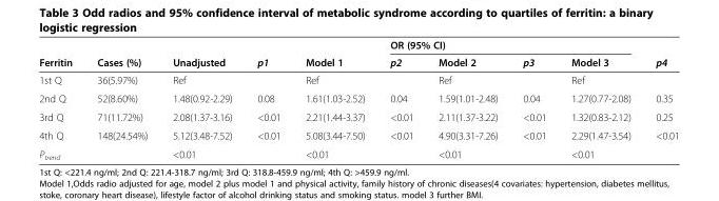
<table><thead><tr><td rowspan="2">Ferritin</td><td rowspan="2">Cases (%)</td><td rowspan="2">Unadjusted</td><td rowspan="2">p1</td><td rowspan="2">Model 1</td><td colspan="4">OR (95% CI)</td><td rowspan="2">p4</td></tr><tr><td>p2</td><td>Model 2</td><td>p3</td><td>Model 3</td></tr></thead><tbody><tr><td>1st Q</td><td>36(5.97%)</td><td>Ref</td><td></td><td>Ref</td><td></td><td>Ref</td><td></td><td>Ref</td><td></td></tr><tr><td>2nd Q</td><td>52(8.60%)</td><td>1.48(0.92-2.29)</td><td>0.08</td><td>1.61(1.03-2.52)</td><td>0.04</td><td>1.59(1.01-2.48)</td><td>0.04</td><td>1.27(0.77-2.08)</td><td>0.35</td></tr><tr><td>3rd Q</td><td>71(11.72%)</td><td>2.08(1.37-3.16)</td><td>&lt;0.01</td><td>2.21(1.44-3.37)</td><td>&lt;0.01</td><td>2.11(1.37-3.22)</td><td>&lt;0.01</td><td>1.32(0.83-2.12)</td><td>0.25</td></tr><tr><td>4th Q</td><td>148(24.54%)</td><td>5.12(3.48-7.52)</td><td>&lt;0.01</td><td>5.08(3.44-7.50)</td><td>&lt;0.01</td><td>4.90(3.31-7.26)</td><td>&lt;0.01</td><td>2.29(1.47-3.54)</td><td>&lt;0.01</td></tr><tr><td colspan="2">P<sub>trend</sub></td><td>&lt;0.01</td><td></td><td>&lt;0.01</td><td></td><td>&lt;0.01</td><td></td><td>&lt;0.01</td><td></td></tr></tbody></table>